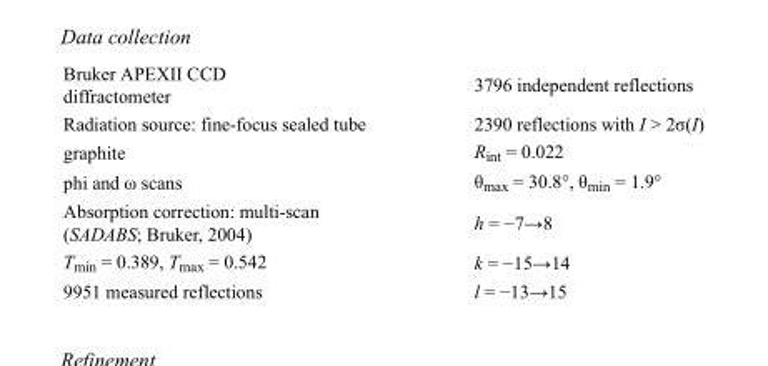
<table><tbody><tr><td>Bruker APEXII CCD diffractometer</td><td>3796 independent reflections</td></tr><tr><td>Radiation source: fine-focus sealed tube</td><td>2390 reflections with I &gt; 2σ(I)</td></tr><tr><td>graphite</td><td>R<sub>int</sub> = 0.022</td></tr><tr><td>phi and ω scans</td><td>θ<sub>max</sub> = 30.8°, θ<sub>min</sub> = 1.9°</td></tr><tr><td>Absorption correction: multi-scan (SADABS; Bruker, 2004)</td><td>h = −7→8</td></tr><tr><td>T<sub>min</sub> = 0.389, T<sub>max</sub> = 0.542</td><td>k = −15→14</td></tr><tr><td>9951 measured reflections</td><td>l = −13→15</td></tr></tbody></table>